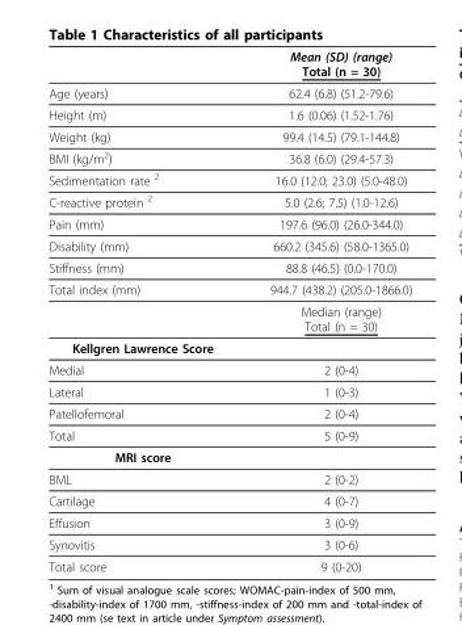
<table><thead><tr><td></td><td>Mean (SD) (range) Total (n = 30)</td></tr></thead><tbody><tr><td>Age (years)</td><td>62.4 (6.8) (51.2-79.6)</td></tr><tr><td>Height (m)</td><td>1.6 (0.06) (1.52-1.76)</td></tr><tr><td>Weight (kg)</td><td>99.4 (14.5) (79.1-144.8)</td></tr><tr><td>BMI (kg/m2)</td><td>36.8 (6.0) (29.4-57.3)</td></tr><tr><td>Sedimentation rate 2</td><td>16.0 (12.0; 23.0) (5.0-48.0)</td></tr><tr><td>C-reactive protein 2</td><td>5.0 (2.6; 7.5) (1.0-12.6)</td></tr><tr><td>Pain (mm)</td><td>197.6 (96.0) (26.0-344.0)</td></tr><tr><td>Disability (mm)</td><td>660.2 (345.6) (58.0-1365.0)</td></tr><tr><td>Stiffness (mm)</td><td>88.8 (46.5) (0.0-170.0)</td></tr><tr><td rowspan="2">Total index (mm)</td><td>944.7 (438.2) (205.0-1866.0)</td></tr><tr><td>Median (range) Total (n = 30)</td></tr><tr><td colspan="2">Kellgren Lawrence Score</td></tr><tr><td>Medial</td><td>2 (0-4)</td></tr><tr><td>Lateral</td><td>1 (0-3)</td></tr><tr><td>Patellofemoral</td><td>2 (0-4)</td></tr><tr><td>Total</td><td>5 (0-9)</td></tr><tr><td colspan="2">MRI score</td></tr><tr><td>BML</td><td>2 (0-2)</td></tr><tr><td>Cartilage</td><td>4 (0-7)</td></tr><tr><td>Effusion</td><td>3 (0-9)</td></tr><tr><td>Synovitis</td><td>3 (0-6)</td></tr><tr><td>Total score</td><td>9 (0-20)</td></tr></tbody></table>